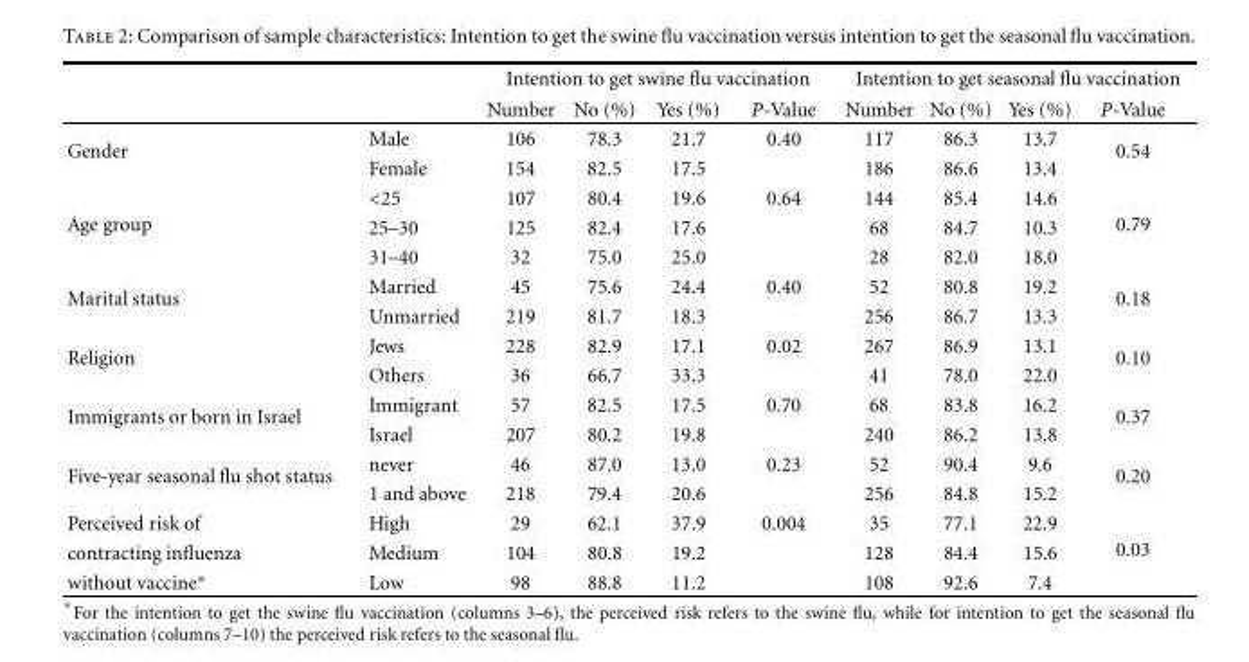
<table><thead><tr><td rowspan="2"></td><td rowspan="2"></td><td colspan="4">Intention to get swine flu vaccination</td><td colspan="4">Intention to get seasonal flu vaccination</td></tr><tr><td>Number</td><td>No (%)</td><td>Yes (%)</td><td>P-Value</td><td>Number</td><td>No (%)</td><td>Yes (%)</td><td>P-Value</td></tr></thead><tbody><tr><td rowspan="2">Gender</td><td>Male</td><td>106</td><td>78.3</td><td>21.7</td><td>0.40</td><td>117</td><td>86.3</td><td>13.7</td><td rowspan="2">0.54</td></tr><tr><td>Female</td><td>154</td><td>82.5</td><td>17.5</td><td></td><td>186</td><td>86.6</td><td>13.4</td></tr><tr><td rowspan="3">Age group</td><td>&lt;25</td><td>107</td><td>80.4</td><td>19.6</td><td>0.64</td><td>144</td><td>85.4</td><td>14.6</td><td rowspan="3">0.79</td></tr><tr><td>25–30</td><td>125</td><td>82.4</td><td>17.6</td><td></td><td>68</td><td>84.7</td><td>10.3</td></tr><tr><td>31–40</td><td>32</td><td>75.0</td><td>25.0</td><td></td><td>28</td><td>82.0</td><td>18.0</td></tr><tr><td rowspan="2">Marital status</td><td>Married</td><td>45</td><td>75.6</td><td>24.4</td><td>0.40</td><td>52</td><td>80.8</td><td>19.2</td><td rowspan="2">0.18</td></tr><tr><td>Unmarried</td><td>219</td><td>81.7</td><td>18.3</td><td></td><td>256</td><td>86.7</td><td>13.3</td></tr><tr><td rowspan="2">Religion</td><td>Jews</td><td>228</td><td>82.9</td><td>17.1</td><td>0.02</td><td>267</td><td>86.9</td><td>13.1</td><td rowspan="2">0.10</td></tr><tr><td>Others</td><td>36</td><td>66.7</td><td>33.3</td><td></td><td>41</td><td>78.0</td><td>22.0</td></tr><tr><td rowspan="2">Immigrants or born in Israel</td><td>Immigrant</td><td>57</td><td>82.5</td><td>17.5</td><td>0.70</td><td>68</td><td>83.8</td><td>16.2</td><td rowspan="2">0.37</td></tr><tr><td>Israel</td><td>207</td><td>80.2</td><td>19.8</td><td></td><td>240</td><td>86.2</td><td>13.8</td></tr><tr><td rowspan="2">Five-year seasonal flu shot status</td><td>never</td><td>46</td><td>87.0</td><td>13.0</td><td>0.23</td><td>52</td><td>90.4</td><td>9.6</td><td rowspan="2">0.20</td></tr><tr><td>1 and above</td><td>218</td><td>79.4</td><td>20.6</td><td></td><td>256</td><td>84.8</td><td>15.2</td></tr><tr><td>Perceived risk of</td><td>High</td><td>29</td><td>62.1</td><td>37.9</td><td>0.004</td><td>35</td><td>77.1</td><td>22.9</td><td rowspan="3">0.03</td></tr><tr><td>contracting influenza</td><td>Medium</td><td>104</td><td>80.8</td><td>19.2</td><td></td><td>128</td><td>84.4</td><td>15.6</td></tr><tr><td>without vaccine∗</td><td>Low</td><td>98</td><td>88.8</td><td>11.2</td><td></td><td>108</td><td>92.6</td><td>7.4</td></tr></tbody></table>